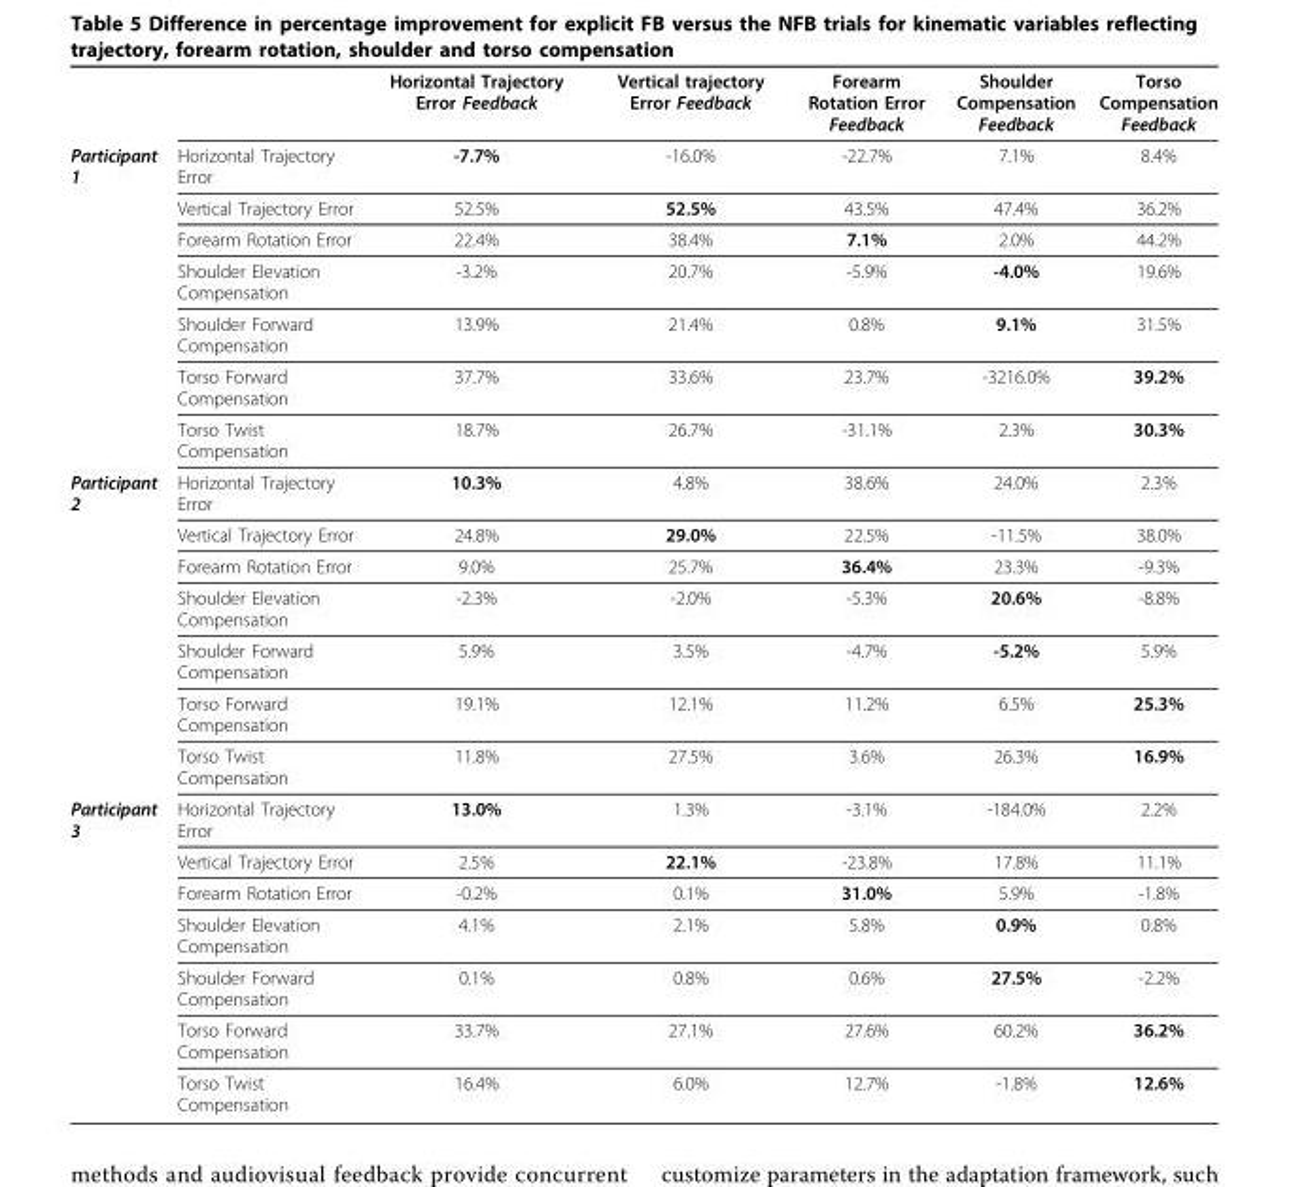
<table><thead><tr><td></td><td></td><td>Horizontal Trajectory Error Feedback</td><td>Vertical trajectory Error Feedback</td><td>Forearm Rotation Error Feedback</td><td>Shoulder Compensation Feedback</td><td>Torso Compensation Feedback</td></tr></thead><tbody><tr><td rowspan="7">Participant 1</td><td>Horizontal Trajectory Error</td><td>-7.7%</td><td>-16.0%</td><td>-22.7%</td><td>7.1%</td><td>8.4%</td></tr><tr><td>Vertical Trajectory Error</td><td>52.5%</td><td>52.5%</td><td>43.5%</td><td>47.4%</td><td>36.2%</td></tr><tr><td>Forearm Rotation Error</td><td>22.4%</td><td>38.4%</td><td>7.1%</td><td>2.0%</td><td>44.2%</td></tr><tr><td>Shoulder Elevation Compensation</td><td>-3.2%</td><td>20.7%</td><td>-5.9%</td><td>-4.0%</td><td>19.6%</td></tr><tr><td>Shoulder Forward Compensation</td><td>13.9%</td><td>21.4%</td><td>0.8%</td><td>9.1%</td><td>31.5%</td></tr><tr><td>Torso Forward Compensation</td><td>37.7%</td><td>33.6%</td><td>23.7%</td><td>-3216.0%</td><td>39.2%</td></tr><tr><td>Torso Twist Compensation</td><td>18.7%</td><td>26.7%</td><td>-31.1%</td><td>2.3%</td><td>30.3%</td></tr><tr><td rowspan="7">Participant 2</td><td>Horizontal Trajectory Error</td><td>10.3%</td><td>4.8%</td><td>38.6%</td><td>24.0%</td><td>2.3%</td></tr><tr><td>Vertical Trajectory Error</td><td>24.8%</td><td>29.0%</td><td>22.5%</td><td>-11.5%</td><td>38.0%</td></tr><tr><td>Forearm Rotation Error</td><td>9.0%</td><td>25.7%</td><td>36.4%</td><td>23.3%</td><td>-9.3%</td></tr><tr><td>Shoulder Elevation Compensation</td><td>-2.3%</td><td>-2.0%</td><td>-5.3%</td><td>20.6%</td><td>-8.8%</td></tr><tr><td>Shoulder Forward Compensation</td><td>5.9%</td><td>3.5%</td><td>-4.7%</td><td>-5.2%</td><td>5.9%</td></tr><tr><td>Torso Forward Compensation</td><td>19.1%</td><td>12.1%</td><td>11.2%</td><td>6.5%</td><td>25.3%</td></tr><tr><td>Torso Twist Compensation</td><td>11.8%</td><td>27.5%</td><td>3.6%</td><td>26.3%</td><td>16.9%</td></tr><tr><td rowspan="7">Participant 3</td><td>Horizontal Trajectory Error</td><td>13.0%</td><td>1.3%</td><td>-3.1%</td><td>-184.0%</td><td>2.2%</td></tr><tr><td>Vertical Trajectory Error</td><td>2.5%</td><td>22.1%</td><td>-23.8%</td><td>17.8%</td><td>11.1%</td></tr><tr><td>Forearm Rotation Error</td><td>-0.2%</td><td>0.1%</td><td>31.0%</td><td>5.9%</td><td>-1.8%</td></tr><tr><td>Shoulder Elevation Compensation</td><td>4.1%</td><td>2.1%</td><td>5.8%</td><td>0.9%</td><td>0.8%</td></tr><tr><td>Shoulder Forward Compensation</td><td>0.1%</td><td>0.8%</td><td>0.6%</td><td>27.5%</td><td>-2.2%</td></tr><tr><td>Torso Forward Compensation</td><td>33.7%</td><td>27.1%</td><td>27.6%</td><td>60.2%</td><td>36.2%</td></tr><tr><td>Torso Twist Compensation</td><td>16.4%</td><td>6.0%</td><td>12.7%</td><td>-1.8%</td><td>12.6%</td></tr></tbody></table>